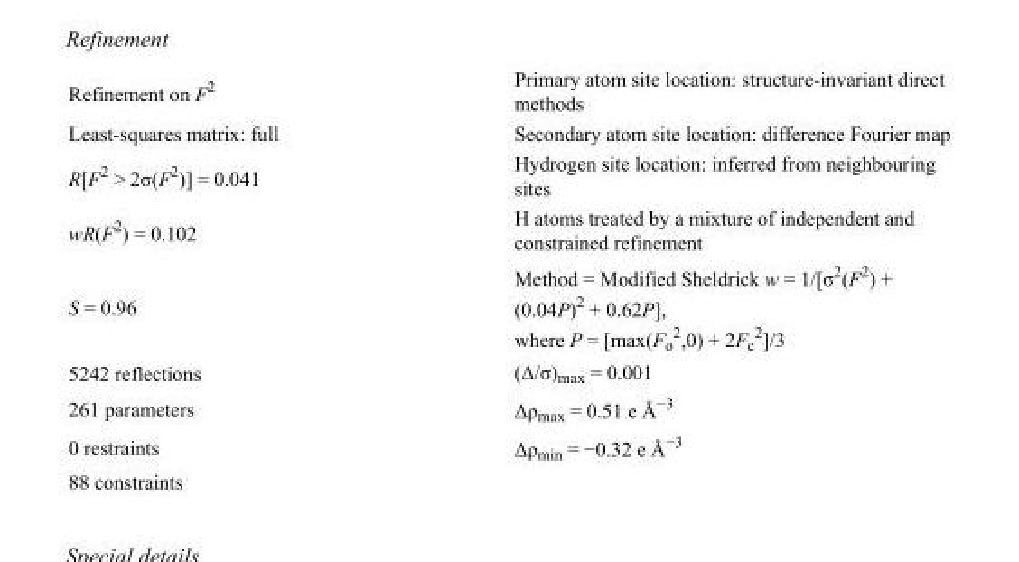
<table><tbody><tr><td>Refinement on F<sup>2</sup></td><td>Primary atom site location: structure-invariant direct methods</td></tr><tr><td>Least-squares matrix: full</td><td>Secondary atom site location: difference Fourier map</td></tr><tr><td>R[F<sup>2</sup> &gt; 2σ(F<sup>2</sup>)] = 0.041</td><td>Hydrogen site location: inferred from neighbouring sites</td></tr><tr><td>wR(F<sup>2</sup>) = 0.102</td><td>H atoms treated by a mixture of independent and constrained refinement</td></tr><tr><td>S = 0.96</td><td>Method = Modified Sheldrick w = 1/[σ<sup>2</sup>(F<sup>2</sup>) + (0.04P)<sup>2</sup> + 0.62P], where P = [max(F<sub>o</sub> <sup>2</sup>,0) + 2F<sub>c</sub> <sup>2</sup>]/3</td></tr><tr><td>5242 reflections</td><td>(Δ/σ)<sub>max</sub> = 0.001</td></tr><tr><td>261 parameters</td><td>Δρ<sub>max</sub> = 0.51 e Å<sup>−3</sup></td></tr><tr><td>0 restraints</td><td>Δρ<sub>min</sub> = −0.32 e Å<sup>−3</sup></td></tr><tr><td>88 constraints</td><td></td></tr></tbody></table>